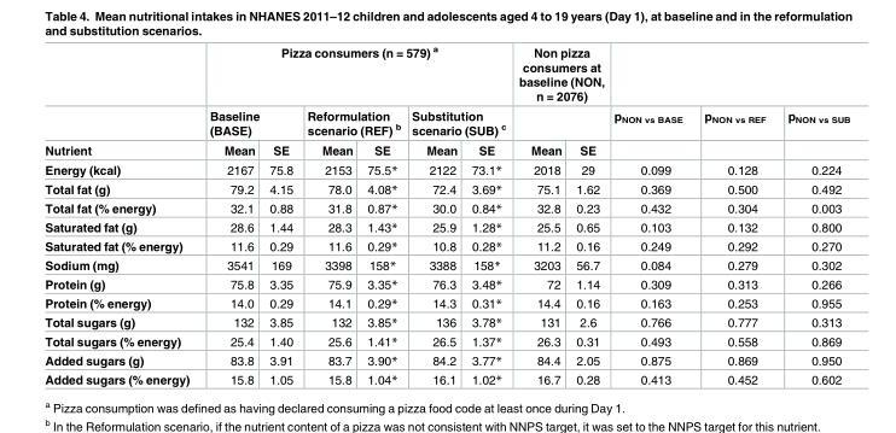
<table><thead><tr><td rowspan="3">Nutrient</td><td colspan="6">Pizza consumers (n = 579) <sup>a</sup></td><td colspan="2">Non pizza consumers at baseline (NON, n = 2076)</td><td rowspan="3">p<sub>NON vs BASE</sub></td><td rowspan="3">p<sub>NON vs REF</sub></td><td rowspan="3">p<sub>NON vs SUB</sub></td></tr><tr><td colspan="2">Baseline (BASE)</td><td colspan="2">Reformulation scenario (REF) <sup>b</sup></td><td colspan="2">Substitution scenario (SUB) <sup>c</sup></td><td rowspan="2">Mean</td><td rowspan="2">SE</td></tr><tr><td>Mean</td><td>SE</td><td>Mean</td><td>SE</td><td>Mean</td><td>SE</td></tr></thead><tbody><tr><td>Energy (kcal)</td><td>2167</td><td>75.8</td><td>2153</td><td>75.5*</td><td>2122</td><td>73.1*</td><td>2018</td><td>29</td><td>0.099</td><td>0.128</td><td>0.224</td></tr><tr><td>Total fat (g)</td><td>79.2</td><td>4.15</td><td>78.0</td><td>4.08*</td><td>72.4</td><td>3.69*</td><td>75.1</td><td>1.62</td><td>0.369</td><td>0.500</td><td>0.492</td></tr><tr><td>Total fat (% energy)</td><td>32.1</td><td>0.88</td><td>31.8</td><td>0.87*</td><td>30.0</td><td>0.84*</td><td>32.8</td><td>0.23</td><td>0.432</td><td>0.304</td><td>0.003</td></tr><tr><td>Saturated fat (g)</td><td>28.6</td><td>1.44</td><td>28.3</td><td>1.43*</td><td>25.9</td><td>1.28*</td><td>25.5</td><td>0.65</td><td>0.103</td><td>0.132</td><td>0.800</td></tr><tr><td>Saturated fat (% energy)</td><td>11.6</td><td>0.29</td><td>11.6</td><td>0.29*</td><td>10.8</td><td>0.28*</td><td>11.2</td><td>0.16</td><td>0.249</td><td>0.292</td><td>0.270</td></tr><tr><td>Sodium (mg)</td><td>3541</td><td>169</td><td>3398</td><td>158*</td><td>3388</td><td>158*</td><td>3203</td><td>56.7</td><td>0.084</td><td>0.279</td><td>0.302</td></tr><tr><td>Protein (g)</td><td>75.8</td><td>3.35</td><td>75.9</td><td>3.35*</td><td>76.3</td><td>3.48*</td><td>72</td><td>1.14</td><td>0.309</td><td>0.313</td><td>0.266</td></tr><tr><td>Protein (% energy)</td><td>14.0</td><td>0.29</td><td>14.1</td><td>0.29*</td><td>14.3</td><td>0.31*</td><td>14.4</td><td>0.16</td><td>0.163</td><td>0.253</td><td>0.955</td></tr><tr><td>Total sugars (g)</td><td>132</td><td>3.85</td><td>132</td><td>3.85*</td><td>136</td><td>3.78*</td><td>131</td><td>2.6</td><td>0.766</td><td>0.777</td><td>0.313</td></tr><tr><td>Total sugars (% energy)</td><td>25.4</td><td>1.40</td><td>25.6</td><td>1.41*</td><td>26.5</td><td>1.37*</td><td>26.3</td><td>0.31</td><td>0.493</td><td>0.558</td><td>0.869</td></tr><tr><td>Added sugars (g)</td><td>83.8</td><td>3.91</td><td>83.7</td><td>3.90*</td><td>84.2</td><td>3.77*</td><td>84.4</td><td>2.05</td><td>0.875</td><td>0.869</td><td>0.950</td></tr><tr><td>Added sugars (% energy)</td><td>15.8</td><td>1.05</td><td>15.8</td><td>1.04*</td><td>16.1</td><td>1.02*</td><td>16.7</td><td>0.28</td><td>0.413</td><td>0.452</td><td>0.602</td></tr></tbody></table>